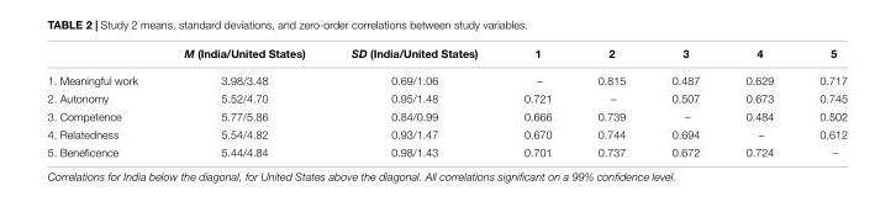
<table><thead><tr><td></td><td>M (India/United States)</td><td>SD (India/United States)</td><td>1</td><td>2</td><td>3</td><td>4</td><td>5</td></tr></thead><tbody><tr><td>1. Meaningful work</td><td>3.98/3.48</td><td>0.69/1.06</td><td>–</td><td>0.815</td><td>0.487</td><td>0.629</td><td>0.717</td></tr><tr><td>2. Autonomy</td><td>5.52/4.70</td><td>0.95/1.48</td><td>0.721</td><td>–</td><td>0.507</td><td>0.673</td><td>0.745</td></tr><tr><td>3. Competence</td><td>5.77/5.86</td><td>0.84/0.99</td><td>0.666</td><td>0.739</td><td>–</td><td>0.484</td><td>0.502</td></tr><tr><td>4. Relatedness</td><td>5.54/4.82</td><td>0.93/1.47</td><td>0.670</td><td>0.744</td><td>0.694</td><td>–</td><td>0.612</td></tr><tr><td>5. Beneficence</td><td>5.44/4.84</td><td>0.98/1.43</td><td>0.701</td><td>0.737</td><td>0.672</td><td>0.724</td><td>–</td></tr></tbody></table>